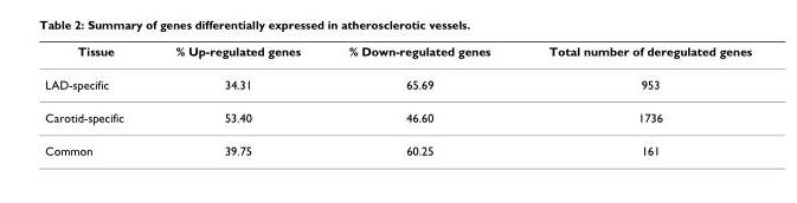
<table><thead><tr><td>Tissue</td><td>% Up-regulated genes</td><td>% Down-regulated genes</td><td>Total number of deregulated genes</td></tr></thead><tbody><tr><td>LAD-specific</td><td>34.31</td><td>65.69</td><td>953</td></tr><tr><td>Carotid-specific</td><td>53.40</td><td>46.60</td><td>1736</td></tr><tr><td>Common</td><td>39.75</td><td>60.25</td><td>161</td></tr></tbody></table>